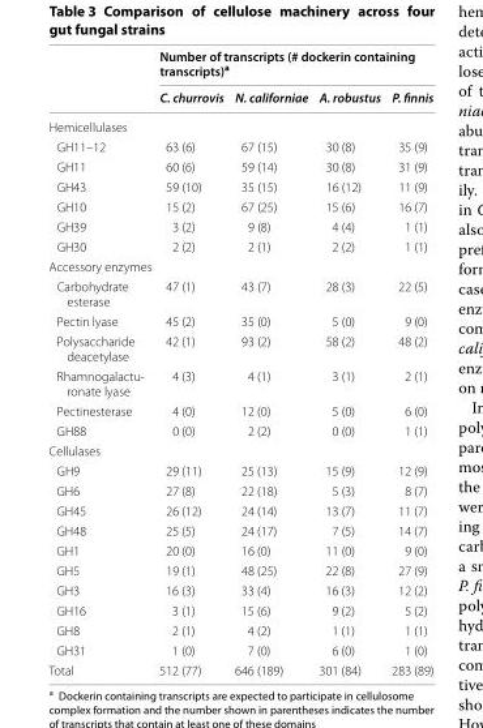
<table><thead><tr><td rowspan="2"></td><td colspan="4">Number of transcripts (# dockerin containing transcripts)<sup>a</sup></td></tr><tr><td>C. churrovis</td><td>N. californiae</td><td>A. robustus</td><td>P. finnis</td></tr></thead><tbody><tr><td colspan="5">Hemicellulases</td></tr><tr><td>GH11–12</td><td>63 (6)</td><td>67 (15)</td><td>30 (8)</td><td>35 (9)</td></tr><tr><td>GH11</td><td>60 (6)</td><td>59 (14)</td><td>30 (8)</td><td>31 (9)</td></tr><tr><td>GH43</td><td>59 (10)</td><td>35 (15)</td><td>16 (12)</td><td>11 (9)</td></tr><tr><td>GH10</td><td>15 (2)</td><td>67 (25)</td><td>15 (6)</td><td>16 (7)</td></tr><tr><td>GH39</td><td>3 (2)</td><td>9 (8)</td><td>4 (4)</td><td>1 (1)</td></tr><tr><td>GH30</td><td>2 (2)</td><td>2 (1)</td><td>2 (2)</td><td>1 (1)</td></tr><tr><td colspan="5">Accessory enzymes</td></tr><tr><td>Carbohydrate esterase</td><td>47 (1)</td><td>43 (7)</td><td>28 (3)</td><td>22 (5)</td></tr><tr><td>Pectin lyase</td><td>45 (2)</td><td>35 (0)</td><td>5 (0)</td><td>9 (0)</td></tr><tr><td>Polysaccharide deacetylase</td><td>42 (1)</td><td>93 (2)</td><td>58 (2)</td><td>48 (2)</td></tr><tr><td>Rhamnogalactu- ronate lyase</td><td>4 (3)</td><td>4 (1)</td><td>3 (1)</td><td>2 (1)</td></tr><tr><td>Pectinesterase</td><td>4 (0)</td><td>12 (0)</td><td>5 (0)</td><td>6 (0)</td></tr><tr><td>GH88</td><td>0 (0)</td><td>2 (2)</td><td>0 (0)</td><td>1 (1)</td></tr><tr><td colspan="5">Cellulases</td></tr><tr><td>GH9</td><td>29 (11)</td><td>25 (13)</td><td>15 (9)</td><td>12 (9)</td></tr><tr><td>GH6</td><td>27 (8)</td><td>22 (18)</td><td>5 (3)</td><td>8 (7)</td></tr><tr><td>GH45</td><td>26 (12)</td><td>24 (14)</td><td>13 (7)</td><td>11 (7)</td></tr><tr><td>GH48</td><td>25 (5)</td><td>24 (17)</td><td>7 (5)</td><td>14 (7)</td></tr><tr><td>GH1</td><td>20 (0)</td><td>16 (0)</td><td>11 (0)</td><td>9 (0)</td></tr><tr><td>GH5</td><td>19 (1)</td><td>48 (25)</td><td>22 (8)</td><td>27 (9)</td></tr><tr><td>GH3</td><td>16 (3)</td><td>33 (4)</td><td>16 (3)</td><td>12 (2)</td></tr><tr><td>GH16</td><td>3 (1)</td><td>15 (6)</td><td>9 (2)</td><td>5 (2)</td></tr><tr><td>GH8</td><td>2 (1)</td><td>4 (2)</td><td>1 (1)</td><td>1 (1)</td></tr><tr><td>GH31</td><td>1 (0)</td><td>7 (0)</td><td>6 (0)</td><td>1 (0)</td></tr><tr><td>Total</td><td>512 (77)</td><td>646 (189)</td><td>301 (84)</td><td>283 (89)</td></tr></tbody></table>